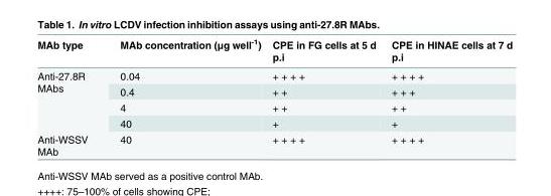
<table><thead><tr><td>MAb type</td><td>MAb concentration (μg well<sup>-1</sup>)</td><td>CPE in FG cells at 5 d p.i</td><td>CPE in HINAE cells at 7 d p.i</td></tr></thead><tbody><tr><td rowspan="4">Anti-27.8R MAbs</td><td>0.04</td><td>+ + + +</td><td>+ + + +</td></tr><tr><td>0.4</td><td>+ +</td><td>+ + +</td></tr><tr><td>4</td><td>+ +</td><td>+ +</td></tr><tr><td>40</td><td>+</td><td>+</td></tr><tr><td>Anti-WSSV MAb</td><td>40</td><td>+ + + +</td><td>+ + + +</td></tr></tbody></table>